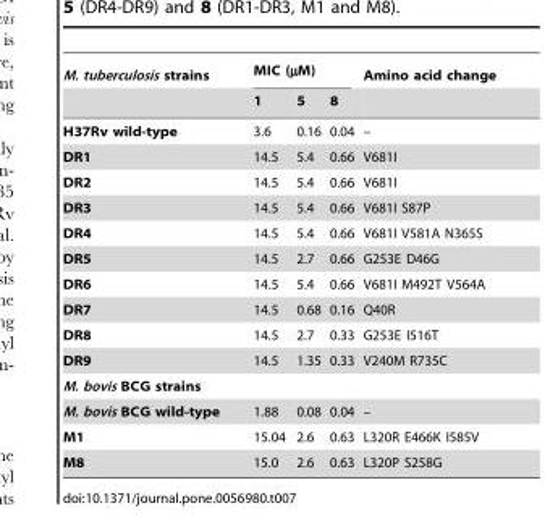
<table><thead><tr><td rowspan="2">M. tuberculosis strains</td><td colspan="3">MIC (µM)</td><td rowspan="2">Amino acid change</td></tr><tr><td>1</td><td>5</td><td>8</td></tr></thead><tbody><tr><td>H37Rv wild-type</td><td>3.6</td><td>0.16</td><td>0.04</td><td>–</td></tr><tr><td>DR1</td><td>14.5</td><td>5.4</td><td>0.66</td><td>V681I</td></tr><tr><td>DR2</td><td>14.5</td><td>5.4</td><td>0.66</td><td>V681I</td></tr><tr><td>DR3</td><td>14.5</td><td>5.4</td><td>0.66</td><td>V681I S87P</td></tr><tr><td>DR4</td><td>14.5</td><td>5.4</td><td>0.66</td><td>V681I V581A N365S</td></tr><tr><td>DR5</td><td>14.5</td><td>2.7</td><td>0.66</td><td>G253E D46G</td></tr><tr><td>DR6</td><td>14.5</td><td>5.4</td><td>0.66</td><td>V681I M492T V564A</td></tr><tr><td>DR7</td><td>14.5</td><td>0.68</td><td>0.16</td><td>Q40R</td></tr><tr><td>DR8</td><td>14.5</td><td>2.7</td><td>0.33</td><td>G253E I516T</td></tr><tr><td>DR9</td><td>14.5</td><td>1.35</td><td>0.33</td><td>V240M R735C</td></tr><tr><td colspan="5">M. bovis BCG strains</td></tr><tr><td>M. bovis BCG wild-type</td><td>1.88</td><td>0.08</td><td>0.04</td><td>–</td></tr><tr><td>M1</td><td>15.04</td><td>2.6</td><td>0.63</td><td>L320R E466K I585V</td></tr><tr><td>M8</td><td>15.0</td><td>2.6</td><td>0.63</td><td>L320P S258G</td></tr></tbody></table>